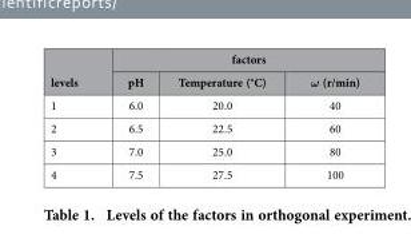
<table><thead><tr><td rowspan="2">levels</td><td colspan="3">factors</td></tr><tr><td>pH</td><td>Temperature (°C)</td><td>ω (r/min)</td></tr></thead><tbody><tr><td>1</td><td>6.0</td><td>20.0</td><td>40</td></tr><tr><td>2</td><td>6.5</td><td>22.5</td><td>60</td></tr><tr><td>3</td><td>7.0</td><td>25.0</td><td>80</td></tr><tr><td>4</td><td>7.5</td><td>27.5</td><td>100</td></tr></tbody></table>